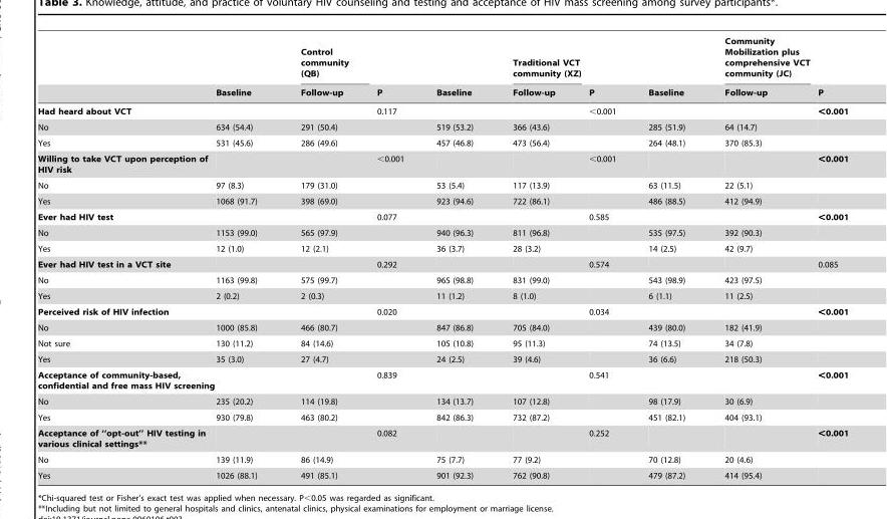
<table><thead><tr><td rowspan="2"></td><td rowspan="2">Baseline</td><td rowspan="2">Control community (QB) Follow-up</td><td rowspan="2">P</td><td rowspan="2">Baseline</td><td rowspan="2">Traditional VCT community (XZ) Follow-up</td><td rowspan="2">P</td><td rowspan="2">Baseline</td><td rowspan="2">Community Mobilization plus comprehensive VCT community (JC) Follow-up</td><td rowspan="2">P</td></tr><tr></tr></thead><tbody><tr><td>Had heard about VCT</td><td></td><td></td><td>0.117</td><td></td><td></td><td>&lt;0.001</td><td></td><td></td><td>&lt;0.001</td></tr><tr><td>No</td><td>634 (54.4)</td><td>291 (50.4)</td><td></td><td>519 (53.2)</td><td>366 (43.6)</td><td></td><td>285 (51.9)</td><td>64 (14.7)</td><td></td></tr><tr><td>Yes</td><td>531 (45.6)</td><td>286 (49.6)</td><td></td><td>457 (46.8)</td><td>473 (56.4)</td><td></td><td>264 (48.1)</td><td>370 (85.3)</td><td></td></tr><tr><td>Willing to take VCT upon perception of HIV risk</td><td></td><td></td><td>&lt;0.001</td><td></td><td></td><td>&lt;0.001</td><td></td><td></td><td>&lt;0.001</td></tr><tr><td>No</td><td>97 (8.3)</td><td>179 (31.0)</td><td></td><td>53 (5.4)</td><td>117 (13.9)</td><td></td><td>63 (11.5)</td><td>22 (5.1)</td><td></td></tr><tr><td>Yes</td><td>1068 (91.7)</td><td>398 (69.0)</td><td></td><td>923 (94.6)</td><td>722 (86.1)</td><td></td><td>486 (88.5)</td><td>412 (94.9)</td><td></td></tr><tr><td>Ever had HIV test</td><td></td><td></td><td>0.077</td><td></td><td></td><td>0.585</td><td></td><td></td><td>&lt;0.001</td></tr><tr><td>No</td><td>1153 (99.0)</td><td>565 (97.9)</td><td></td><td>940 (96.3)</td><td>811 (96.8)</td><td></td><td>535 (97.5)</td><td>392 (90.3)</td><td></td></tr><tr><td>Yes</td><td>12 (1.0)</td><td>12 (2.1)</td><td></td><td>36 (3.7)</td><td>28 (3.2)</td><td></td><td>14 (2.5)</td><td>42 (9.7)</td><td></td></tr><tr><td>Ever had HIV test in a VCT site</td><td></td><td></td><td>0.292</td><td></td><td></td><td>0.574</td><td></td><td></td><td>0.085</td></tr><tr><td>No</td><td>1163 (99.8)</td><td>575 (99.7)</td><td></td><td>965 (98.8)</td><td>831 (99.0)</td><td></td><td>543 (98.9)</td><td>423 (97.5)</td><td></td></tr><tr><td>Yes</td><td>2 (0.2)</td><td>2 (0.3)</td><td></td><td>11 (1.2)</td><td>8 (1.0)</td><td></td><td>6 (1.1)</td><td>11 (2.5)</td><td></td></tr><tr><td>Perceived risk of HIV infection</td><td></td><td></td><td>0.020</td><td></td><td></td><td>0.034</td><td></td><td></td><td>&lt;0.001</td></tr><tr><td>No</td><td>1000 (85.8)</td><td>466 (80.7)</td><td></td><td>847 (86.8)</td><td>705 (84.0)</td><td></td><td>439 (80.0)</td><td>182 (41.9)</td><td></td></tr><tr><td>Not sure</td><td>130 (11.2)</td><td>84 (14.6)</td><td></td><td>105 (10.8)</td><td>95 (11.3)</td><td></td><td>74 (13.5)</td><td>34 (7.8)</td><td></td></tr><tr><td>Yes</td><td>35 (3.0)</td><td>27 (4.7)</td><td></td><td>24 (2.5)</td><td>39 (4.6)</td><td></td><td>36 (6.6)</td><td>218 (50.3)</td><td></td></tr><tr><td>Acceptance of community-based, confidential and free mass HIV screening</td><td></td><td></td><td>0.839</td><td></td><td></td><td>0.541</td><td></td><td></td><td>&lt;0.001</td></tr><tr><td>No</td><td>235 (20.2)</td><td>114 (19.8)</td><td></td><td>134 (13.7)</td><td>107 (12.8)</td><td></td><td>98 (17.9)</td><td>30 (6.9)</td><td></td></tr><tr><td>Yes</td><td>930 (79.8)</td><td>463 (80.2)</td><td></td><td>842 (86.3)</td><td>732 (87.2)</td><td></td><td>451 (82.1)</td><td>404 (93.1)</td><td></td></tr><tr><td>Acceptance of ‘‘opt-out’’ HIV testing in various clinical settings**</td><td></td><td></td><td>0.082</td><td></td><td></td><td>0.252</td><td></td><td></td><td>&lt;0.001</td></tr><tr><td>No</td><td>139 (11.9)</td><td>86 (14.9)</td><td></td><td>75 (7.7)</td><td>77 (9.2)</td><td></td><td>70 (12.8)</td><td>20 (4.6)</td><td></td></tr><tr><td>Yes</td><td>1026 (88.1)</td><td>491 (85.1)</td><td></td><td>901 (92.3)</td><td>762 (90.8)</td><td></td><td>479 (87.2)</td><td>414 (95.4)</td><td></td></tr></tbody></table>